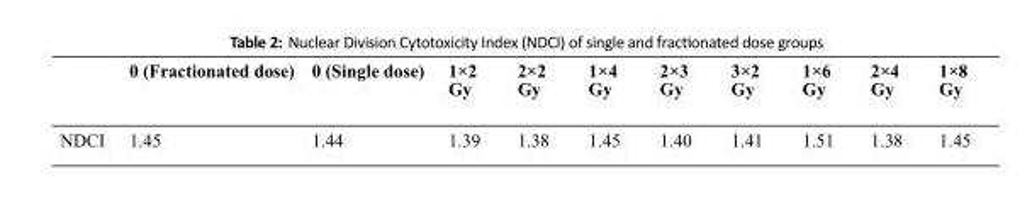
<table><thead><tr><td></td><td>0 (Fractionated dose)</td><td>0 (Single dose)</td><td>1×2 Gy</td><td>2×2 Gy</td><td>1×4 Gy</td><td>2×3 Gy</td><td>3×2 Gy</td><td>1×6 Gy</td><td>2×4 Gy</td><td>1×8 Gy</td></tr></thead><tbody><tr><td>NDCI</td><td>1.45</td><td>1.44</td><td>1.39</td><td>1.38</td><td>1.45</td><td>1.40</td><td>1.41</td><td>1.51</td><td>1.38</td><td>1.45</td></tr></tbody></table>